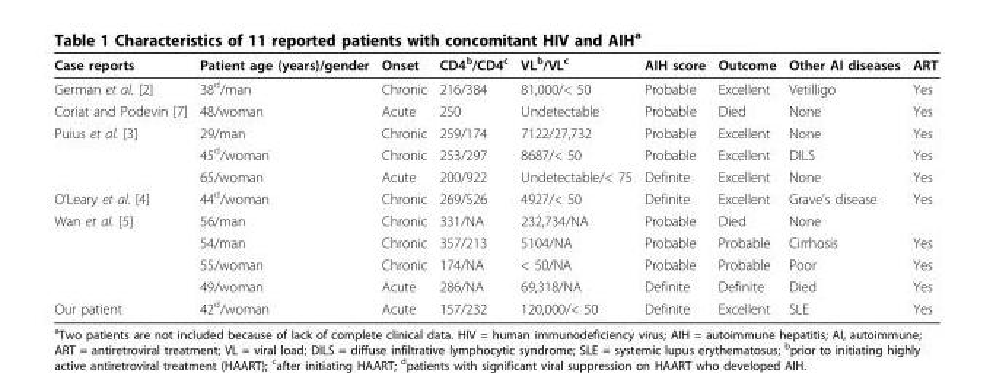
<table><thead><tr><td>Case reports</td><td>Patient age (years)/gender</td><td>Onset</td><td>CD4<sup>b</sup>/CD4<sup>c</sup></td><td>VL<sup>b</sup>/VL<sup>c</sup></td><td>AIH score</td><td>Outcome</td><td>Other AI diseases</td><td>ART</td></tr></thead><tbody><tr><td>German et al. [2]</td><td>38<sup>d</sup>/man</td><td>Chronic</td><td>216/384</td><td>81,000/&lt; 50</td><td>Probable</td><td>Excellent</td><td>Vetilligo</td><td>Yes</td></tr><tr><td>Coriat and Podevin [7]</td><td>48/woman</td><td>Acute</td><td>250</td><td>Undetectable</td><td>Probable</td><td>Died</td><td>None</td><td>Yes</td></tr><tr><td rowspan="3">Puius et al. [3]</td><td>29/man</td><td>Chronic</td><td>259/174</td><td>7122/27,732</td><td>Probable</td><td>Excellent</td><td>None</td><td>Yes</td></tr><tr><td>45<sup>d</sup>/woman</td><td>Chronic</td><td>253/297</td><td>8687/&lt; 50</td><td>Probable</td><td>Excellent</td><td>DILS</td><td>Yes</td></tr><tr><td>65/woman</td><td>Acute</td><td>200/922</td><td>Undetectable/&lt; 75</td><td>Definite</td><td>Excellent</td><td>None</td><td>Yes</td></tr><tr><td>O’Leary et al. [4]</td><td>44<sup>d</sup>/woman</td><td>Chronic</td><td>269/526</td><td>4927/&lt; 50</td><td>Definite</td><td>Excellent</td><td>Grave’s disease</td><td>Yes</td></tr><tr><td rowspan="4">Wan et al. [5]</td><td>56/man</td><td>Chronic</td><td>331/NA</td><td>232,734/NA</td><td>Probable</td><td>Died</td><td>None</td><td></td></tr><tr><td>54/man</td><td>Chronic</td><td>357/213</td><td>5104/NA</td><td>Probable</td><td>Probable</td><td>Cirrhosis</td><td>Yes</td></tr><tr><td>55/woman</td><td>Chronic</td><td>174/NA</td><td>&lt; 50/NA</td><td>Probable</td><td>Probable</td><td>Poor</td><td>Yes</td></tr><tr><td>49/woman</td><td>Acute</td><td>286/NA</td><td>69,318/NA</td><td>Definite</td><td>Definite</td><td>Died</td><td>Yes</td></tr><tr><td>Our patient</td><td>42<sup>d</sup>/woman</td><td>Acute</td><td>157/232</td><td>120,000/&lt; 50</td><td>Definite</td><td>Excellent</td><td>SLE</td><td>Yes</td></tr></tbody></table>